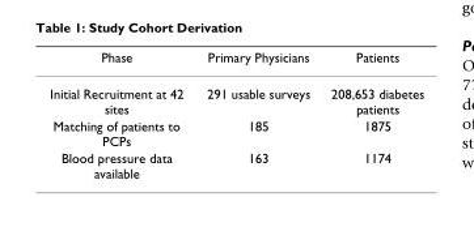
<table><thead><tr><td>Phase</td><td>Primary Physicians</td><td>Patients</td></tr></thead><tbody><tr><td>Initial Recruitment at 42 sites</td><td>291 usable surveys</td><td>208,653 diabetes patients</td></tr><tr><td>Matching of patients to PCPs</td><td>185</td><td>1875</td></tr><tr><td>Blood pressure data available</td><td>163</td><td>1174</td></tr></tbody></table>